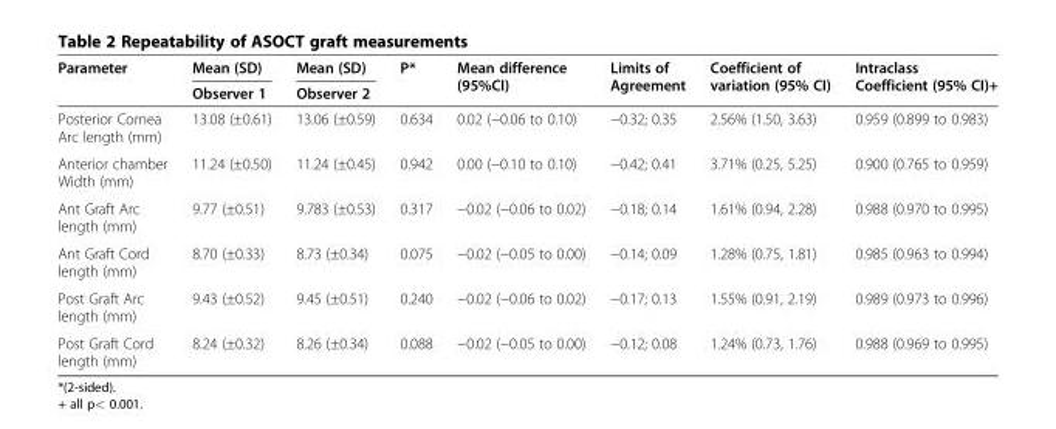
<table><thead><tr><td rowspan="2">Parameter</td><td rowspan="2">Mean (SD) Observer 1</td><td rowspan="2">Mean (SD) Observer 2</td><td rowspan="2">P*</td><td rowspan="2">Mean difference (95%CI)</td><td rowspan="2">Limits of Agreement</td><td rowspan="2">Coefficient of variation (95% CI)</td><td rowspan="2">Intraclass Coefficient (95% CI)+</td></tr><tr></tr></thead><tbody><tr><td>Posterior Cornea Arc length (mm)</td><td>13.08 (±0.61)</td><td>13.06 (±0.59)</td><td>0.634</td><td>0.02 (−0.06 to 0.10)</td><td>−0.32; 0.35</td><td>2.56% (1.50, 3.63)</td><td>0.959 (0.899 to 0.983)</td></tr><tr><td>Anterior chamber Width (mm)</td><td>11.24 (±0.50)</td><td>11.24 (±0.45)</td><td>0.942</td><td>0.00 (−0.10 to 0.10)</td><td>−0.42; 0.41</td><td>3.71% (0.25, 5.25)</td><td>0.900 (0.765 to 0.959)</td></tr><tr><td>Ant Graft Arc length (mm)</td><td>9.77 (±0.51)</td><td>9.783 (±0.53)</td><td>0.317</td><td>−0.02 (−0.06 to 0.02)</td><td>−0.18; 0.14</td><td>1.61% (0.94, 2.28)</td><td>0.988 (0.970 to 0.995)</td></tr><tr><td>Ant Graft Cord length (mm)</td><td>8.70 (±0.33)</td><td>8.73 (±0.34)</td><td>0.075</td><td>−0.02 (−0.05 to 0.00)</td><td>−0.14; 0.09</td><td>1.28% (0.75, 1.81)</td><td>0.985 (0.963 to 0.994)</td></tr><tr><td>Post Graft Arc length (mm)</td><td>9.43 (±0.52)</td><td>9.45 (±0.51)</td><td>0.240</td><td>−0.02 (−0.06 to 0.02)</td><td>−0.17; 0.13</td><td>1.55% (0.91, 2.19)</td><td>0.989 (0.973 to 0.996)</td></tr><tr><td>Post Graft Cord length (mm)</td><td>8.24 (±0.32)</td><td>8.26 (±0.34)</td><td>0.088</td><td>−0.02 (−0.05 to 0.00)</td><td>−0.12; 0.08</td><td>1.24% (0.73, 1.76)</td><td>0.988 (0.969 to 0.995)</td></tr></tbody></table>